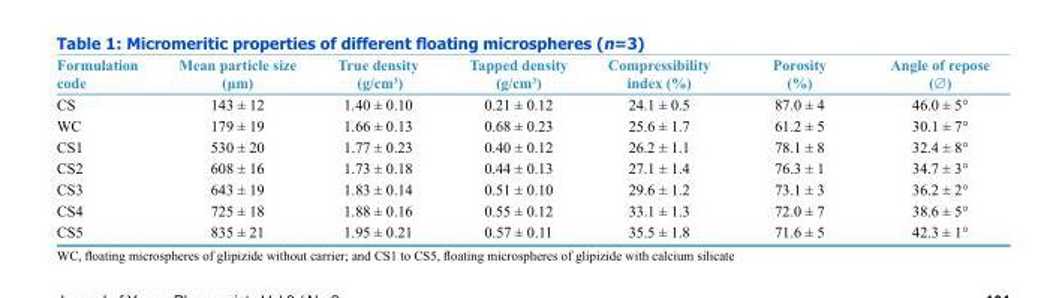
<table><thead><tr><td>Formulation code</td><td>Mean particle size (μm)</td><td>True density (g/cm<sup>3</sup>)</td><td>Tapped density (g/cm<sup>3</sup>)</td><td>Compressibility index (%)</td><td>Porosity (%)</td><td>Angle of repose (∅)</td></tr></thead><tbody><tr><td>CS</td><td>143 ± 12</td><td>1.40 ± 0.10</td><td>0.21 ± 0.12</td><td>24.1 ± 0.5</td><td>87.0 ± 4</td><td>46.0 ± 5°</td></tr><tr><td>WC</td><td>179 ± 19</td><td>1.66 ± 0.13</td><td>0.68 ± 0.23</td><td>25.6 ± 1.7</td><td>61.2 ± 5</td><td>30.1 ± 7°</td></tr><tr><td>CS1</td><td>530 ± 20</td><td>1.77 ± 0.23</td><td>0.40 ± 0.12</td><td>26.2 ± 1.1</td><td>78.1 ± 8</td><td>32.4 ± 8°</td></tr><tr><td>CS2</td><td>608 ± 16</td><td>1.73 ± 0.18</td><td>0.44 ± 0.13</td><td>27.1 ± 1.4</td><td>76.3 ± 1</td><td>34.7 ± 3°</td></tr><tr><td>CS3</td><td>643 ± 19</td><td>1.83 ± 0.14</td><td>0.51 ± 0.10</td><td>29.6 ± 1.2</td><td>73.1 ± 3</td><td>36.2 ± 2°</td></tr><tr><td>CS4</td><td>725 ± 18</td><td>1.88 ± 0.16</td><td>0.55 ± 0.12</td><td>33.1 ± 1.3</td><td>72.0 ± 7</td><td>38.6 ± 5°</td></tr><tr><td>CS5</td><td>835 ± 21</td><td>1.95 ± 0.21</td><td>0.57 ± 0.11</td><td>35.5 ± 1.8</td><td>71.6 ± 5</td><td>42.3 ± 1°</td></tr></tbody></table>